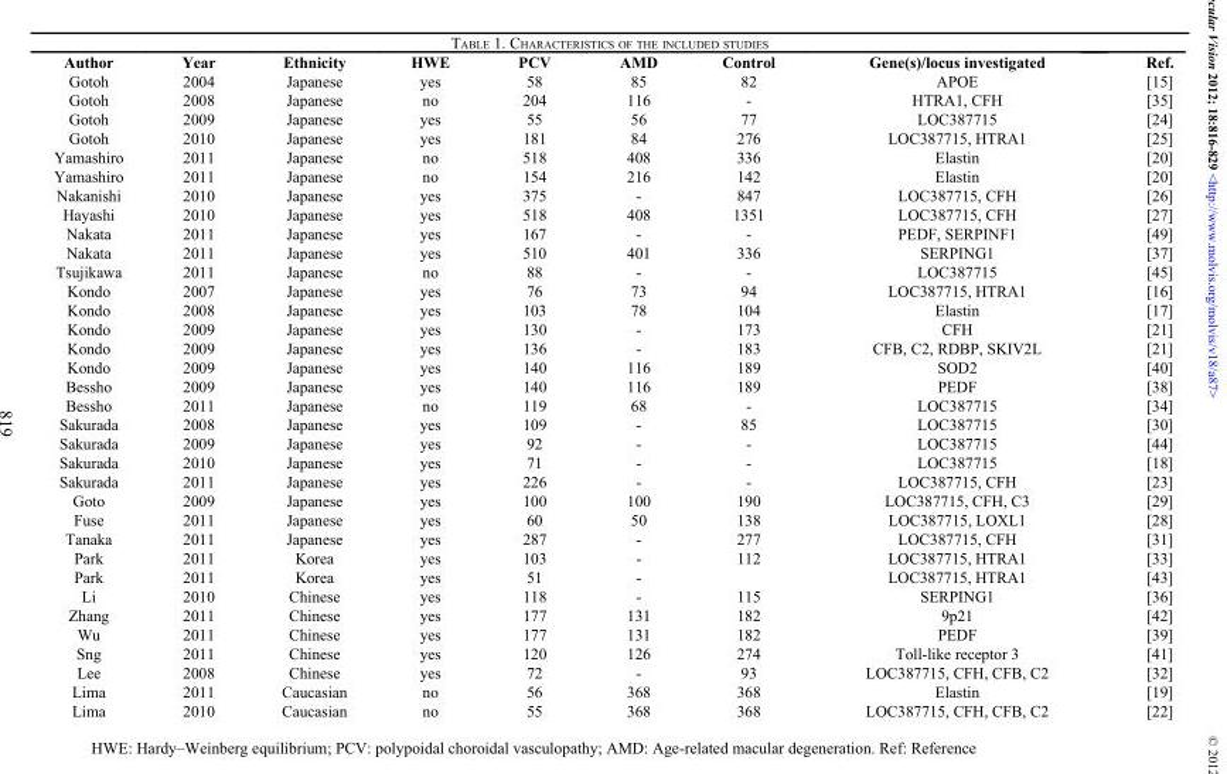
<table><thead><tr><td>Author</td><td>Year</td><td>Ethnicity</td><td>HWE</td><td>PCV</td><td>AMD</td><td>Control</td><td>Gene(s)/locus investigated</td><td>Ref.</td></tr></thead><tbody><tr><td>Gotoh</td><td>2004</td><td>Japanese</td><td>yes</td><td>58</td><td>85</td><td>82</td><td>APOE</td><td>[15]</td></tr><tr><td>Gotoh</td><td>2008</td><td>Japanese</td><td>no</td><td>204</td><td>116</td><td>-</td><td>HTRA1, CFH</td><td>[35]</td></tr><tr><td>Gotoh</td><td>2009</td><td>Japanese</td><td>yes</td><td>55</td><td>56</td><td>77</td><td>LOC387715</td><td>[24]</td></tr><tr><td>Gotoh</td><td>2010</td><td>Japanese</td><td>yes</td><td>181</td><td>84</td><td>276</td><td>LOC387715, HTRA1</td><td>[25]</td></tr><tr><td>Yamashiro</td><td>2011</td><td>Japanese</td><td>no</td><td>518</td><td>408</td><td>336</td><td>Elastin</td><td>[20]</td></tr><tr><td>Yamashiro</td><td>2011</td><td>Japanese</td><td>no</td><td>154</td><td>216</td><td>142</td><td>Elastin</td><td>[20]</td></tr><tr><td>Nakanishi</td><td>2010</td><td>Japanese</td><td>yes</td><td>375</td><td>-</td><td>847</td><td>LOC387715, CFH</td><td>[26]</td></tr><tr><td>Hayashi</td><td>2010</td><td>Japanese</td><td>yes</td><td>518</td><td>408</td><td>1351</td><td>LOC387715, CFH</td><td>[27]</td></tr><tr><td>Nakata</td><td>2011</td><td>Japanese</td><td>yes</td><td>167</td><td>-</td><td>-</td><td>PEDF, SERPINF1</td><td>[49]</td></tr><tr><td>Nakata</td><td>2011</td><td>Japanese</td><td>yes</td><td>510</td><td>401</td><td>336</td><td>SERPING1</td><td>[37]</td></tr><tr><td>Tsujikawa</td><td>2011</td><td>Japanese</td><td>no</td><td>88</td><td>-</td><td>-</td><td>LOC387715</td><td>[45]</td></tr><tr><td>Kondo</td><td>2007</td><td>Japanese</td><td>yes</td><td>76</td><td>73</td><td>94</td><td>LOC387715, HTRA1</td><td>[16]</td></tr><tr><td>Kondo</td><td>2008</td><td>Japanese</td><td>yes</td><td>103</td><td>78</td><td>104</td><td>Elastin</td><td>[17]</td></tr><tr><td>Kondo</td><td>2009</td><td>Japanese</td><td>yes</td><td>130</td><td>-</td><td>173</td><td>CFH</td><td>[21]</td></tr><tr><td>Kondo</td><td>2009</td><td>Japanese</td><td>yes</td><td>136</td><td>-</td><td>183</td><td>CFB, C2, RDBP, SKIV2L</td><td>[21]</td></tr><tr><td>Kondo</td><td>2009</td><td>Japanese</td><td>yes</td><td>140</td><td>116</td><td>189</td><td>SOD2</td><td>[40]</td></tr><tr><td>Bessho</td><td>2009</td><td>Japanese</td><td>yes</td><td>140</td><td>116</td><td>189</td><td>PEDF</td><td>[38]</td></tr><tr><td>Bessho</td><td>2011</td><td>Japanese</td><td>no</td><td>119</td><td>68</td><td>-</td><td>LOC387715</td><td>[34]</td></tr><tr><td>Sakurada</td><td>2008</td><td>Japanese</td><td>yes</td><td>109</td><td>-</td><td>85</td><td>LOC387715</td><td>[30]</td></tr><tr><td>Sakurada</td><td>2009</td><td>Japanese</td><td>yes</td><td>92</td><td>-</td><td>-</td><td>LOC387715</td><td>[44]</td></tr><tr><td>Sakurada</td><td>2010</td><td>Japanese</td><td>yes</td><td>71</td><td>-</td><td>-</td><td>LOC387715</td><td>[18]</td></tr><tr><td>Sakurada</td><td>2011</td><td>Japanese</td><td>yes</td><td>226</td><td>-</td><td>-</td><td>LOC387715, CFH</td><td>[23]</td></tr><tr><td>Goto</td><td>2009</td><td>Japanese</td><td>yes</td><td>100</td><td>100</td><td>190</td><td>LOC387715, CFH, C3</td><td>[29]</td></tr><tr><td>Fuse</td><td>2011</td><td>Japanese</td><td>yes</td><td>60</td><td>50</td><td>138</td><td>LOC387715, LOXL1</td><td>[28]</td></tr><tr><td>Tanaka</td><td>2011</td><td>Japanese</td><td>yes</td><td>287</td><td>-</td><td>277</td><td>LOC387715, CFH</td><td>[31]</td></tr><tr><td>Park</td><td>2011</td><td>Korea</td><td>yes</td><td>103</td><td>-</td><td>112</td><td>LOC387715, HTRA1</td><td>[33]</td></tr><tr><td>Park</td><td>2011</td><td>Korea</td><td>yes</td><td>51</td><td>-</td><td></td><td>LOC387715, HTRA1</td><td>[43]</td></tr><tr><td>Li</td><td>2010</td><td>Chinese</td><td>yes</td><td>118</td><td>-</td><td>115</td><td>SERPING1</td><td>[36]</td></tr><tr><td>Zhang</td><td>2011</td><td>Chinese</td><td>yes</td><td>177</td><td>131</td><td>182</td><td>9p21</td><td>[42]</td></tr><tr><td>Wu</td><td>2011</td><td>Chinese</td><td>yes</td><td>177</td><td>131</td><td>182</td><td>PEDF</td><td>[39]</td></tr><tr><td>Sng</td><td>2011</td><td>Chinese</td><td>yes</td><td>120</td><td>126</td><td>274</td><td>Toll-like receptor 3</td><td>[41]</td></tr><tr><td>Lee</td><td>2008</td><td>Chinese</td><td>yes</td><td>72</td><td>-</td><td>93</td><td>LOC387715, CFH, CFB, C2</td><td>[32]</td></tr><tr><td>Lima</td><td>2011</td><td>Caucasian</td><td>no</td><td>56</td><td>368</td><td>368</td><td>Elastin</td><td>[19]</td></tr><tr><td>Lima</td><td>2010</td><td>Caucasian</td><td>no</td><td>55</td><td>368</td><td>368</td><td>LOC387715, CFH, CFB, C2</td><td>[22]</td></tr></tbody></table>